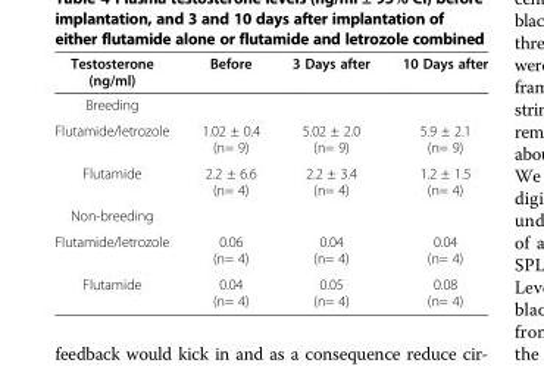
<table><thead><tr><td>Testosterone (ng/ml)</td><td>Before</td><td>3 Days after</td><td>10 Days after</td></tr></thead><tbody><tr><td colspan="4">Breeding</td></tr><tr><td>Flutamide/letrozole</td><td>1.02 ± 0.4 (n= 9)</td><td>5.02 ± 2.0 (n= 9)</td><td>5.9 ± 2.1 (n= 9)</td></tr><tr><td>Flutamide</td><td>2.2 ± 6.6 (n= 4)</td><td>2.2 ± 3.4 (n= 4)</td><td>1.2 ± 1.5 (n= 4)</td></tr><tr><td colspan="4">Non-breeding</td></tr><tr><td>Flutamide/letrozole</td><td>0.06 (n= 4)</td><td>0.04 (n= 4)</td><td>0.04 (n= 4)</td></tr><tr><td>Flutamide</td><td>0.04 (n= 4)</td><td>0.05 (n= 4)</td><td>0.08 (n= 4)</td></tr></tbody></table>